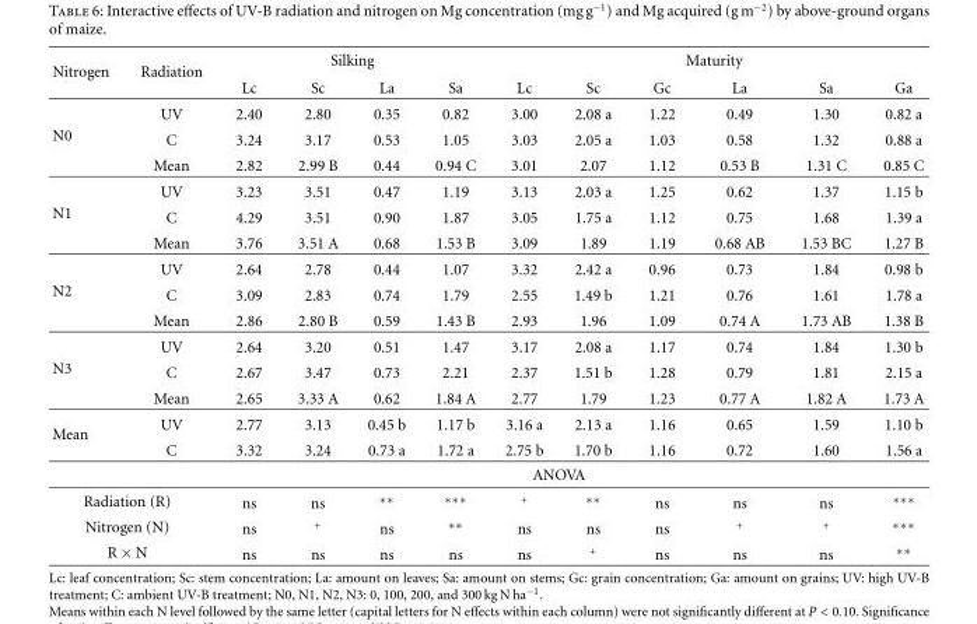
<table><thead><tr><td rowspan="2">Nitrogen</td><td rowspan="2">Radiation</td><td colspan="4">Silking</td><td colspan="6">Maturity</td></tr><tr><td>Lc</td><td>Sc</td><td>La</td><td>Sa</td><td>Lc</td><td>Sc</td><td>Gc</td><td>La</td><td>Sa</td><td>Ga</td></tr></thead><tbody><tr><td rowspan="3">N0</td><td>UV</td><td>2.40</td><td>2.80</td><td>0.35</td><td>0.82</td><td>3.00</td><td>2.08 a</td><td>1.22</td><td>0.49</td><td>1.30</td><td>0.82 a</td></tr><tr><td>C</td><td>3.24</td><td>3.17</td><td>0.53</td><td>1.05</td><td>3.03</td><td>2.05 a</td><td>1.03</td><td>0.58</td><td>1.32</td><td>0.88 a</td></tr><tr><td>Mean</td><td>2.82</td><td>2.99 B</td><td>0.44</td><td>0.94 C</td><td>3.01</td><td>2.07</td><td>1.12</td><td>0.53 B</td><td>1.31 C</td><td>0.85 C</td></tr><tr><td rowspan="3">N1</td><td>UV</td><td>3.23</td><td>3.51</td><td>0.47</td><td>1.19</td><td>3.13</td><td>2.03 a</td><td>1.25</td><td>0.62</td><td>1.37</td><td>1.15 b</td></tr><tr><td>C</td><td>4.29</td><td>3.51</td><td>0.90</td><td>1.87</td><td>3.05</td><td>1.75 a</td><td>1.12</td><td>0.75</td><td>1.68</td><td>1.39 a</td></tr><tr><td>Mean</td><td>3.76</td><td>3.51 A</td><td>0.68</td><td>1.53 B</td><td>3.09</td><td>1.89</td><td>1.19</td><td>0.68 AB</td><td>1.53 BC</td><td>1.27 B</td></tr><tr><td rowspan="3">N2</td><td>UV</td><td>2.64</td><td>2.78</td><td>0.44</td><td>1.07</td><td>3.32</td><td>2.42 a</td><td>0.96</td><td>0.73</td><td>1.84</td><td>0.98 b</td></tr><tr><td>C</td><td>3.09</td><td>2.83</td><td>0.74</td><td>1.79</td><td>2.55</td><td>1.49 b</td><td>1.21</td><td>0.76</td><td>1.61</td><td>1.78 a</td></tr><tr><td>Mean</td><td>2.86</td><td>2.80 B</td><td>0.59</td><td>1.43 B</td><td>2.93</td><td>1.96</td><td>1.09</td><td>0.74 A</td><td>1.73 AB</td><td>1.38 B</td></tr><tr><td rowspan="3">N3</td><td>UV</td><td>2.64</td><td>3.20</td><td>0.51</td><td>1.47</td><td>3.17</td><td>2.08 a</td><td>1.17</td><td>0.74</td><td>1.84</td><td>1.30 b</td></tr><tr><td>C</td><td>2.67</td><td>3.47</td><td>0.73</td><td>2.21</td><td>2.37</td><td>1.51 b</td><td>1.28</td><td>0.79</td><td>1.81</td><td>2.15 a</td></tr><tr><td>Mean</td><td>2.65</td><td>3.33 A</td><td>0.62</td><td>1.84 A</td><td>2.77</td><td>1.79</td><td>1.23</td><td>0.77 A</td><td>1.82 A</td><td>1.73 A</td></tr><tr><td rowspan="3">Mean</td><td>UV</td><td>2.77</td><td>3.13</td><td>0.45 b</td><td>1.17 b</td><td>3.16 a</td><td>2.13 a</td><td>1.16</td><td>0.65</td><td>1.59</td><td>1.10 b</td></tr><tr><td>C</td><td>3.32</td><td>3.24</td><td>0.73 a</td><td>1.72 a</td><td>2.75 b</td><td>1.70 b</td><td>1.16</td><td>0.72</td><td>1.60</td><td>1.56 a</td></tr><tr><td></td><td></td><td></td><td></td><td></td><td colspan="2">ANOVA</td><td></td><td></td><td></td><td></td></tr><tr><td colspan="2">Radiation (R)</td><td>ns</td><td>ns</td><td>∗∗</td><td>∗∗∗</td><td>+</td><td>∗∗</td><td>ns</td><td>ns</td><td>ns</td><td>∗∗∗</td></tr><tr><td colspan="2">Nitrogen (N)</td><td>ns</td><td>+</td><td>ns</td><td>∗∗</td><td>ns</td><td>ns</td><td>ns</td><td>+</td><td>+</td><td>∗∗∗</td></tr><tr><td colspan="2">R × N</td><td>ns</td><td>ns</td><td>ns</td><td>ns</td><td>ns</td><td>+</td><td>ns</td><td>ns</td><td>ns</td><td>∗∗</td></tr></tbody></table>